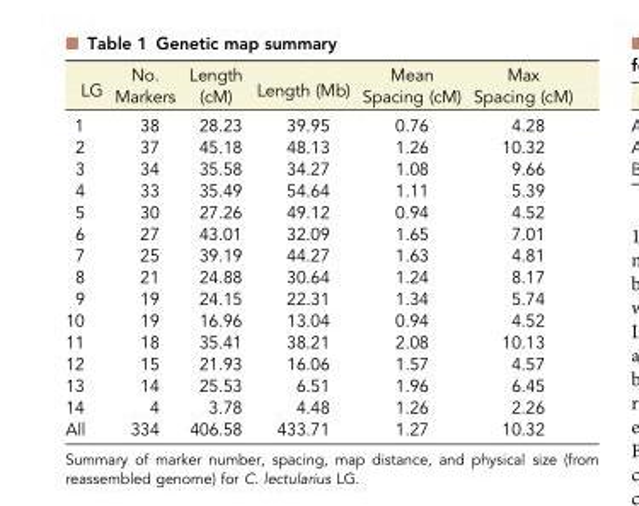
<table><thead><tr><td>LG</td><td>No. Markers</td><td>Length (cM)</td><td>Length (Mb)</td><td>Mean Spacing (cM)</td><td>Max Spacing (cM)</td></tr></thead><tbody><tr><td>1</td><td>38</td><td>28.23</td><td>39.95</td><td>0.76</td><td>4.28</td></tr><tr><td>2</td><td>37</td><td>45.18</td><td>48.13</td><td>1.26</td><td>10.32</td></tr><tr><td>3</td><td>34</td><td>35.58</td><td>34.27</td><td>1.08</td><td>9.66</td></tr><tr><td>4</td><td>33</td><td>35.49</td><td>54.64</td><td>1.11</td><td>5.39</td></tr><tr><td>5</td><td>30</td><td>27.26</td><td>49.12</td><td>0.94</td><td>4.52</td></tr><tr><td>6</td><td>27</td><td>43.01</td><td>32.09</td><td>1.65</td><td>7.01</td></tr><tr><td>7</td><td>25</td><td>39.19</td><td>44.27</td><td>1.63</td><td>4.81</td></tr><tr><td>8</td><td>21</td><td>24.88</td><td>30.64</td><td>1.24</td><td>8.17</td></tr><tr><td>9</td><td>19</td><td>24.15</td><td>22.31</td><td>1.34</td><td>5.74</td></tr><tr><td>10</td><td>19</td><td>16.96</td><td>13.04</td><td>0.94</td><td>4.52</td></tr><tr><td>11</td><td>18</td><td>35.41</td><td>38.21</td><td>2.08</td><td>10.13</td></tr><tr><td>12</td><td>15</td><td>21.93</td><td>16.06</td><td>1.57</td><td>4.57</td></tr><tr><td>13</td><td>14</td><td>25.53</td><td>6.51</td><td>1.96</td><td>6.45</td></tr><tr><td>14</td><td>4</td><td>3.78</td><td>4.48</td><td>1.26</td><td>2.26</td></tr><tr><td>All</td><td>334</td><td>406.58</td><td>433.71</td><td>1.27</td><td>10.32</td></tr></tbody></table>